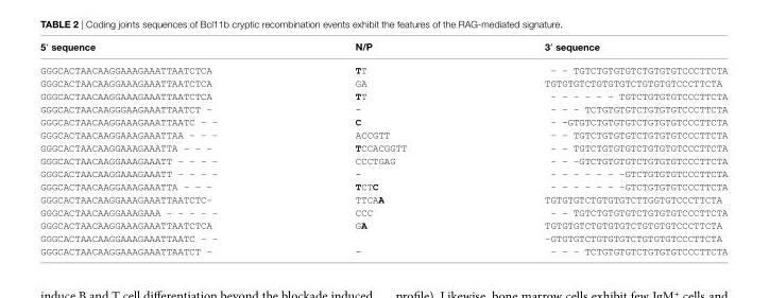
<table><thead><tr><td>5′ sequence</td><td>n/P</td><td>3′ sequence</td></tr></thead><tbody><tr><td>GGGCACTAACAAGGAAAGAAATTAATCTCA</td><td>TT</td><td>– – TGTCTGTGTGTCTGTGTGTCCCTTCTA</td></tr><tr><td>GGGCACTAACAAGGAAAGAAATTAATCTCA</td><td>GA</td><td>TGTGTGTCTGTGTGTCTGTGTGTCCCTTCTA</td></tr><tr><td>GGGCACTAACAAGGAAAGAAATTAATCTCA</td><td>TT</td><td>– – – – – – TGTCTGTGTGTCCCTTCTA</td></tr><tr><td>GGGCACTAACAAGGGAAGAAATTAATCT –</td><td>-</td><td>– – – TCTGTGTGTCTGTGTGTCCCTTCTA</td></tr><tr><td>GGGCACTAACAAGGAAAGAAATTAATC – –</td><td>C</td><td>– -GTGTCTGTGTGTCTGTGTGTCCCTTCTA</td></tr><tr><td>GGGCACTAACAAGGAAAGAAATTAA – – –</td><td>ACCGTT</td><td>– – TGTCTGTGTGTCTGTGTGTCCCTTCTA</td></tr><tr><td>GGGCACTAACAAGGAAAGAAATTA – – –</td><td>TCCACGGTT</td><td>– – TGTCTGTGTGTCTGTGTGTCCCTTCTA</td></tr><tr><td>GGGCACTAACAAGGAAAGAAATT – – – –</td><td>CCCTGAG</td><td>– – –GTCTGTGTGTCTGTGTGTCCCTTCTA</td></tr><tr><td>GGGCACTAACAAGGAAAGAAATT – – – –</td><td>-</td><td>– – – – – – –GTCTGTGTGTCCCTTCTA</td></tr><tr><td>GGGCACTAACAAGGAAAGAAATTA – – –</td><td>TCTC</td><td>– – – – – – –GTCTGTGTGTCCCTTCTA</td></tr><tr><td>GGGCACTAACAAGGAAAGAAATTAATCTC–</td><td>TTCAA</td><td>TGTGTGTCTGTGTGTCTTGGTGTCCCTTCTA</td></tr><tr><td>GGGCACTAACAAGGAAAGAAA – – – – –</td><td>CCC</td><td>– – TGTCTGTGTGTCTGTGTGTCCCTTCTA</td></tr><tr><td>GGGCACTAACAAGGAAAGAAATTAATCTCA</td><td>GA</td><td>TGTGTGTCTGTGTGTCTGTGTGTCCCTTCTA</td></tr><tr><td>GGGCACTAACAAGGAAAGAAATTAATC – –</td><td></td><td>–GTGTGTCTGTGTGTCTGTGTGTCCCTTCTA</td></tr><tr><td>GGGCACTAACAAGGAAAGAAATTAATCT –</td><td>-</td><td>– – – TCTGTGTGTCTGTGTGTCCCTTCTA</td></tr></tbody></table>